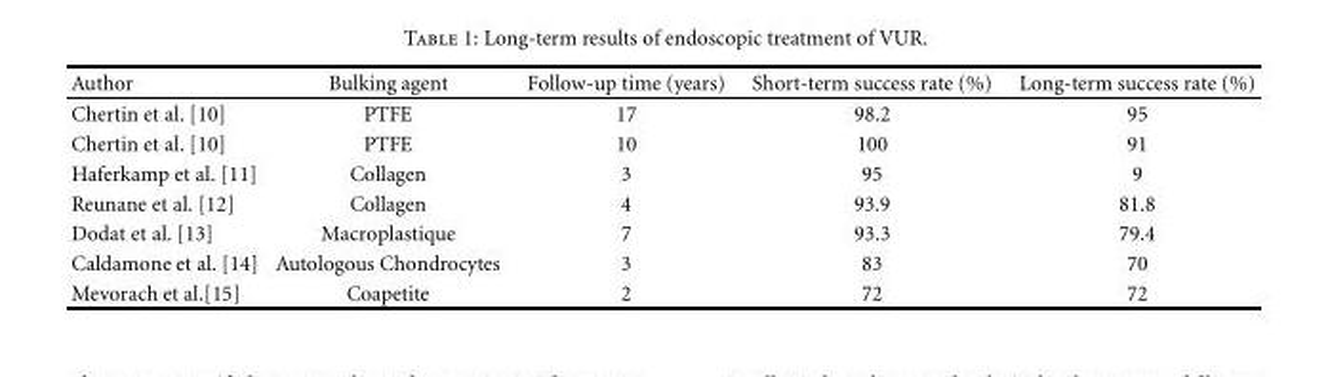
<table><thead><tr><td>Author</td><td>Bulking agent</td><td>Follow-up time (years)</td><td>Short-term success rate (%)</td><td>Long-term success rate (%)</td></tr></thead><tbody><tr><td>Chertin et al. [10]</td><td>PTFE</td><td>17</td><td>98.2</td><td>95</td></tr><tr><td>Chertin et al. [10]</td><td>PTFE</td><td>10</td><td>100</td><td>91</td></tr><tr><td>Haferkamp et al. [11]</td><td>Collagen</td><td>3</td><td>95</td><td>9</td></tr><tr><td>Reunane et al. [12]</td><td>Collagen</td><td>4</td><td>93.9</td><td>81.8</td></tr><tr><td>Dodat et al. [13]</td><td>Macroplastique</td><td>7</td><td>93.3</td><td>79.4</td></tr><tr><td>Caldamone et al. [14]</td><td>Autologous Chondrocytes</td><td>3</td><td>83</td><td>70</td></tr><tr><td>Mevorach et al.[15]</td><td>Coapetite</td><td>2</td><td>72</td><td>72</td></tr></tbody></table>